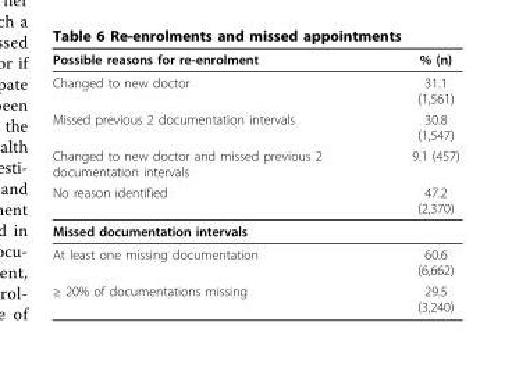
<table><thead><tr><td>Possible reasons for re-enrolment</td><td>% (n)</td></tr></thead><tbody><tr><td>Changed to new doctor</td><td>31.1 (1,561)</td></tr><tr><td>Missed previous 2 documentation intervals</td><td>30.8 (1,547)</td></tr><tr><td>Changed to new doctor and missed previous 2 documentation intervals</td><td>9.1 (457)</td></tr><tr><td>No reason identified</td><td>47.2 (2,370)</td></tr><tr><td colspan="2">Missed documentation intervals</td></tr><tr><td>At least one missing documentation</td><td>60.6 (6,662)</td></tr><tr><td>≥ 20% of documentations missing</td><td>29.5 (3,240)</td></tr></tbody></table>